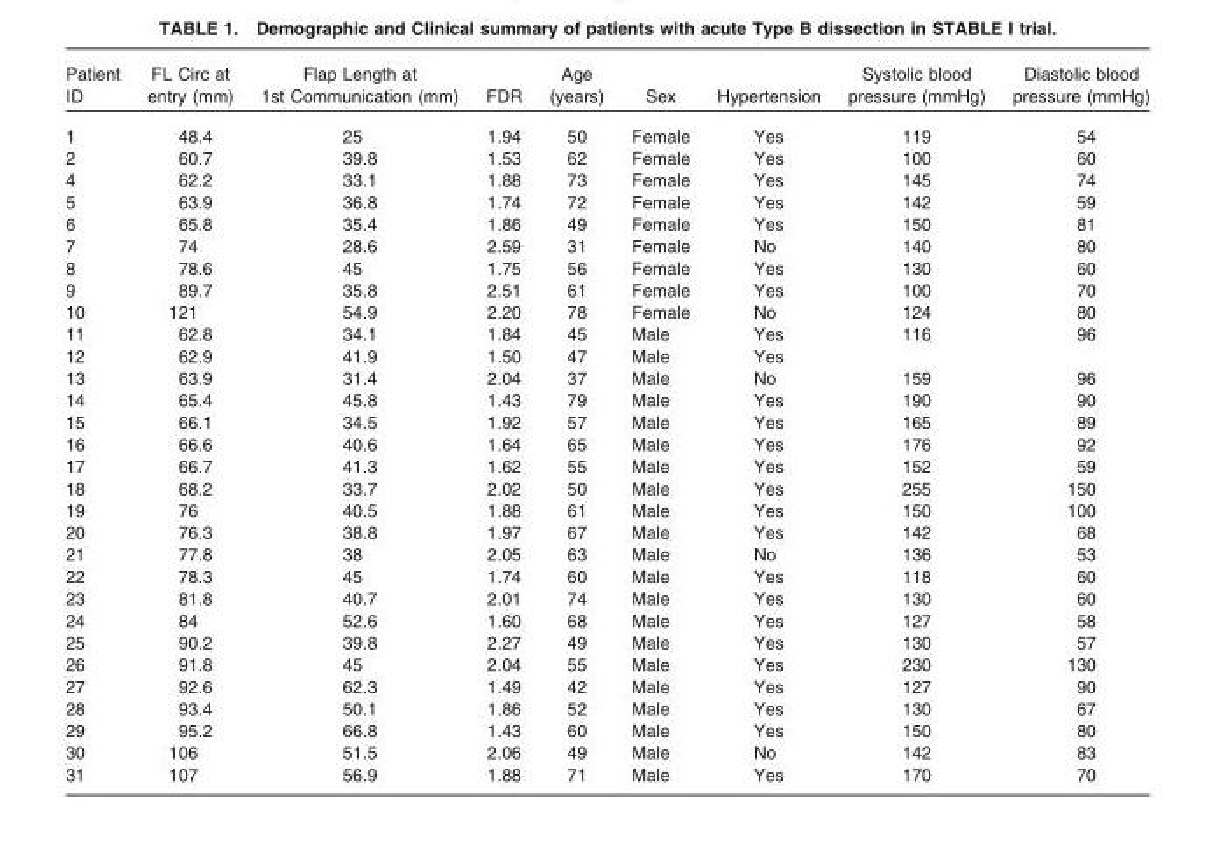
<table><thead><tr><td>Patient ID</td><td>FL Circ at entry (mm)</td><td>Flap Length at 1st Communication (mm)</td><td>FDR</td><td>Age (years)</td><td>Sex</td><td>Hypertension</td><td>Systolic blood pressure (mmHg)</td><td>Diastolic blood pressure (mmHg)</td></tr></thead><tbody><tr><td>1</td><td>48.4</td><td>25</td><td>1.94</td><td>50</td><td>Female</td><td>Yes</td><td>119</td><td>54</td></tr><tr><td>2</td><td>60.7</td><td>39.8</td><td>1.53</td><td>62</td><td>Female</td><td>Yes</td><td>100</td><td>60</td></tr><tr><td>4</td><td>62.2</td><td>33.1</td><td>1.88</td><td>73</td><td>Female</td><td>Yes</td><td>145</td><td>74</td></tr><tr><td>5</td><td>63.9</td><td>36.8</td><td>1.74</td><td>72</td><td>Female</td><td>Yes</td><td>142</td><td>59</td></tr><tr><td>6</td><td>65.8</td><td>35.4</td><td>1.86</td><td>49</td><td>Female</td><td>Yes</td><td>150</td><td>81</td></tr><tr><td>7</td><td>74</td><td>28.6</td><td>2.59</td><td>31</td><td>Female</td><td>No</td><td>140</td><td>80</td></tr><tr><td>8</td><td>78.6</td><td>45</td><td>1.75</td><td>56</td><td>Female</td><td>Yes</td><td>130</td><td>60</td></tr><tr><td>9</td><td>89.7</td><td>35.8</td><td>2.51</td><td>61</td><td>Female</td><td>Yes</td><td>100</td><td>70</td></tr><tr><td>10</td><td>121</td><td>54.9</td><td>2.20</td><td>78</td><td>Female</td><td>No</td><td>124</td><td>80</td></tr><tr><td>11</td><td>62.8</td><td>34.1</td><td>1.84</td><td>45</td><td>Male</td><td>Yes</td><td>116</td><td>96</td></tr><tr><td>12</td><td>62.9</td><td>41.9</td><td>1.50</td><td>47</td><td>Male</td><td>Yes</td><td></td><td></td></tr><tr><td>13</td><td>63.9</td><td>31.4</td><td>2.04</td><td>37</td><td>Male</td><td>No</td><td>159</td><td>96</td></tr><tr><td>14</td><td>65.4</td><td>45.8</td><td>1.43</td><td>79</td><td>Male</td><td>Yes</td><td>190</td><td>90</td></tr><tr><td>15</td><td>66.1</td><td>34.5</td><td>1.92</td><td>57</td><td>Male</td><td>Yes</td><td>165</td><td>89</td></tr><tr><td>16</td><td>66.6</td><td>40.6</td><td>1.64</td><td>65</td><td>Male</td><td>Yes</td><td>176</td><td>92</td></tr><tr><td>17</td><td>66.7</td><td>41.3</td><td>1.62</td><td>55</td><td>Male</td><td>Yes</td><td>152</td><td>59</td></tr><tr><td>18</td><td>68.2</td><td>33.7</td><td>2.02</td><td>50</td><td>Male</td><td>Yes</td><td>255</td><td>150</td></tr><tr><td>19</td><td>76</td><td>40.5</td><td>1.88</td><td>61</td><td>Male</td><td>Yes</td><td>150</td><td>100</td></tr><tr><td>20</td><td>76.3</td><td>38.8</td><td>1.97</td><td>67</td><td>Male</td><td>Yes</td><td>142</td><td>68</td></tr><tr><td>21</td><td>77.8</td><td>38</td><td>2.05</td><td>63</td><td>Male</td><td>No</td><td>136</td><td>53</td></tr><tr><td>22</td><td>78.3</td><td>45</td><td>1.74</td><td>60</td><td>Male</td><td>Yes</td><td>118</td><td>60</td></tr><tr><td>23</td><td>81.8</td><td>40.7</td><td>2.01</td><td>74</td><td>Male</td><td>Yes</td><td>130</td><td>60</td></tr><tr><td>24</td><td>84</td><td>52.6</td><td>1.60</td><td>68</td><td>Male</td><td>Yes</td><td>127</td><td>58</td></tr><tr><td>25</td><td>90.2</td><td>39.8</td><td>2.27</td><td>49</td><td>Male</td><td>Yes</td><td>130</td><td>57</td></tr><tr><td>26</td><td>91.8</td><td>45</td><td>2.04</td><td>55</td><td>Male</td><td>Yes</td><td>230</td><td>130</td></tr><tr><td>27</td><td>92.6</td><td>62.3</td><td>1.49</td><td>42</td><td>Male</td><td>Yes</td><td>127</td><td>90</td></tr><tr><td>28</td><td>93.4</td><td>50.1</td><td>1.86</td><td>52</td><td>Male</td><td>Yes</td><td>130</td><td>67</td></tr><tr><td>29</td><td>95.2</td><td>66.8</td><td>1.43</td><td>60</td><td>Male</td><td>Yes</td><td>150</td><td>80</td></tr><tr><td>30</td><td>106</td><td>51.5</td><td>2.06</td><td>49</td><td>Male</td><td>No</td><td>142</td><td>83</td></tr><tr><td>31</td><td>107</td><td>56.9</td><td>1.88</td><td>71</td><td>Male</td><td>Yes</td><td>170</td><td>70</td></tr></tbody></table>